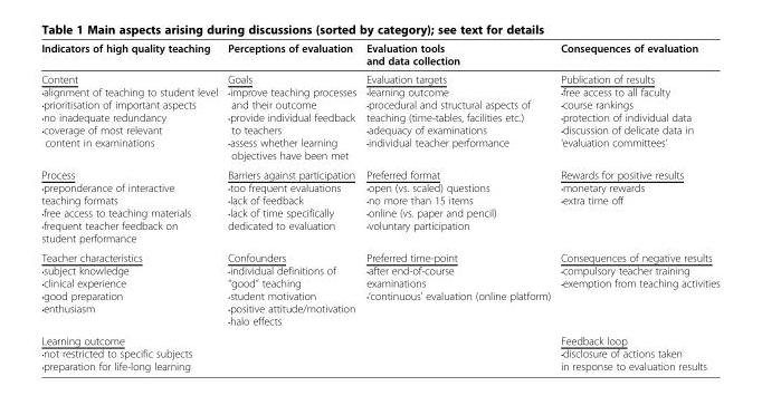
<table><thead><tr><td>Indicators of high quality teaching</td><td>Perceptions of evaluation</td><td>Evaluation tools and data collection</td><td>Consequences of evaluation</td></tr></thead><tbody><tr><td>Content •alignment of teaching to student level •prioritisation of important aspects •no inadequate redundancy •coverage of most relevant content in examinations</td><td>Goals •improve teaching processes and their outcome •provide individual feedback to teachers •assess whether learning objectives have been met</td><td>Evaluation targets •learning outcome •procedural and structural aspects of teaching (time-tables, facilities etc.) •adequacy of examinations •individual teacher performance</td><td>Publication of results •free access to all faculty •course rankings •protection of individual data •discussion of delicate data in ‘evaluation committees’</td></tr><tr><td>Process •preponderance of interactive teaching formats •free access to teaching materials •frequent teacher feedback on student performance</td><td>Barriers against participation •too frequent evaluations •lack of feedback •lack of time specifically dedicated to evaluation</td><td>Preferred format •open (vs. scaled) questions •no more than 15 items •online (vs. paper and pencil) •voluntary participation</td><td>Rewards for positive results •monetary rewards •extra time off</td></tr><tr><td>Teacher characteristics •subject knowledge •clinical experience •good preparation •enthusiasm</td><td>Confounders •individual definitions of “good” teaching •student motivation •positive attitude/motivation •halo effects</td><td>Preferred time-point •after end-of-course examinations •‘continuous’ evaluation (online platform)</td><td>Consequences of negative results •compulsory teacher training •exemption from teaching activities</td></tr><tr><td>Learning outcome •not restricted to specific subjects •preparation for life-long learning</td><td></td><td></td><td>Feedback loop •disclosure of actions taken in response to evaluation results</td></tr></tbody></table>